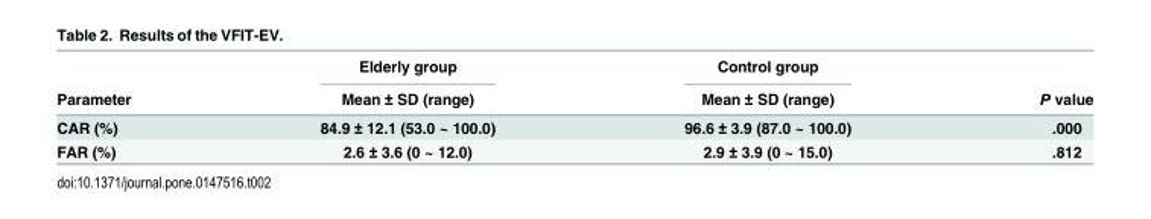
<table><thead><tr><td rowspan="2">Parameter</td><td rowspan="2">Elderly group Mean ± SD (range)</td><td rowspan="2">Control group Mean ± SD (range)</td><td rowspan="2">P value</td></tr><tr></tr></thead><tbody><tr><td>CAR (%)</td><td>84.9 ± 12.1 (53.0 ~ 100.0)</td><td>96.6 ± 3.9 (87.0 ~ 100.0)</td><td>.000</td></tr><tr><td>FAR (%)</td><td>2.6 ± 3.6 (0 ~ 12.0)</td><td>2.9 ± 3.9 (0 ~ 15.0)</td><td>.812</td></tr></tbody></table>